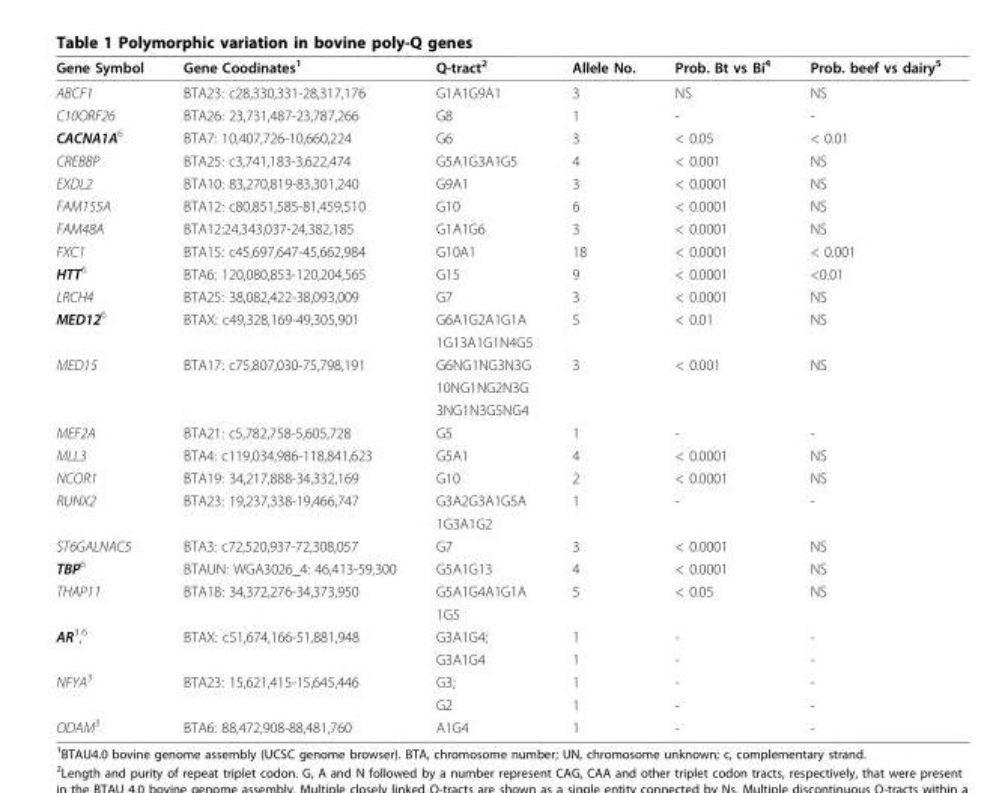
<table><thead><tr><td>Gene Symbol</td><td>Gene Coodinates<sup>1</sup></td><td>Q-tract<sup>2</sup></td><td>Allele No.</td><td>Prob. Bt vs Bi<sup>4</sup></td><td>Prob. beef vs dairy<sup>5</sup></td></tr></thead><tbody><tr><td>ABCF1</td><td>BTA23: c28,330,331-28,317,176</td><td>G1A1G9A1</td><td>3</td><td>NS</td><td>NS</td></tr><tr><td>C10ORF26</td><td>BTA26: 23,731,487-23,787,266</td><td>G8</td><td>1</td><td>-</td><td>-</td></tr><tr><td>CACNA1A<sup>6</sup></td><td>BTA7: 10,407,726-10,660,224</td><td>G6</td><td>3</td><td>&lt; 0.05</td><td>&lt; 0.01</td></tr><tr><td>CREBBP</td><td>BTA25: c3,741,183-3,622,474</td><td>G5A1G3A1G5</td><td>4</td><td>&lt; 0.001</td><td>NS</td></tr><tr><td>EXDL2</td><td>BTA10: 83,270,819-83,301,240</td><td>G9A1</td><td>3</td><td>&lt; 0.0001</td><td>NS</td></tr><tr><td>FAM155A</td><td>BTA12: c80,851,585-81,459,510</td><td>G10</td><td>6</td><td>&lt; 0.0001</td><td>NS</td></tr><tr><td>FAM48A</td><td>BTA12:24,343,037-24,382,185</td><td>G1A1G6</td><td>3</td><td>&lt; 0.0001</td><td>NS</td></tr><tr><td>FXC1</td><td>BTA15: c45,697,647-45,662,984</td><td>G10A1</td><td>18</td><td>&lt; 0.0001</td><td>&lt; 0.001</td></tr><tr><td>HTT<sup>6</sup></td><td>BTA6: 120,080,853-120,204,565</td><td>G15</td><td>9</td><td>&lt; 0.0001</td><td>&lt;0.01</td></tr><tr><td>LRCH4</td><td>BTA25: 38,082,422-38,093,009</td><td>G7</td><td>3</td><td>&lt; 0.0001</td><td>NS</td></tr><tr><td rowspan="2">MED12<sup>6</sup></td><td>BTAX: c49,328,169-49,305,901</td><td>G6A1G2A1G1A</td><td>5</td><td>&lt; 0.01</td><td>NS</td></tr><tr><td></td><td>1G13A1G1N4G5</td><td></td><td></td><td></td></tr><tr><td rowspan="3">MED15</td><td>BTA17: c75,807,030-75,798,191</td><td>G6NG1NG3N3G</td><td>3</td><td>&lt; 0.001</td><td>NS</td></tr><tr><td></td><td>10NG1NG2N3G</td><td></td><td></td><td></td></tr><tr><td></td><td>3NG1N3G5NG4</td><td></td><td></td><td></td></tr><tr><td>MEF2A</td><td>BTA21: c5,782,758-5,605,728</td><td>G5</td><td>1</td><td>-</td><td>-</td></tr><tr><td>MLL3</td><td>BTA4: c119,034,986-118,841,623</td><td>G5A1</td><td>4</td><td>&lt; 0.0001</td><td>NS</td></tr><tr><td>NCOR1</td><td>BTA19: 34,217,888-34,332,169</td><td>G10</td><td>2</td><td>&lt; 0.0001</td><td>NS</td></tr><tr><td rowspan="2">RUNX2</td><td>BTA23: 19,237,338-19,466,747</td><td>G3A2G3A1G5A</td><td>1</td><td>-</td><td>-</td></tr><tr><td></td><td>1G3A1G2</td><td></td><td></td><td></td></tr><tr><td>ST6GALNAC5</td><td>BTA3: c72,520,937-72,308,057</td><td>G7</td><td>3</td><td>&lt; 0.0001</td><td>NS</td></tr><tr><td>TBP<sup>6</sup></td><td>BTAUN: WGA3026_4: 46,413-59,300</td><td>G5A1G13</td><td>4</td><td>&lt; 0.0001</td><td>NS</td></tr><tr><td rowspan="2">THAP11</td><td>BTA18: 34,372,276-34,373,950</td><td>G5A1G4A1G1A</td><td>5</td><td>&lt; 0.05</td><td>NS</td></tr><tr><td></td><td>1G5</td><td></td><td></td><td></td></tr><tr><td rowspan="2">AR<sup>3</sup>,<sup>6</sup></td><td>BTAX: c51,674,166-51,881,948</td><td>G3A1G4;</td><td>1</td><td>-</td><td>-</td></tr><tr><td></td><td>G3A1G4</td><td>1</td><td>-</td><td>-</td></tr><tr><td rowspan="2">NFYA<sup>3</sup></td><td>BTA23: 15,621,415-15,645,446</td><td>G3;</td><td>1</td><td>-</td><td>-</td></tr><tr><td></td><td>G2</td><td>1</td><td>-</td><td>-</td></tr><tr><td>ODAM<sup>3</sup></td><td>BTA6: 88,472,908-88,481,760</td><td>A1G4</td><td>1</td><td>-</td><td>-</td></tr></tbody></table>